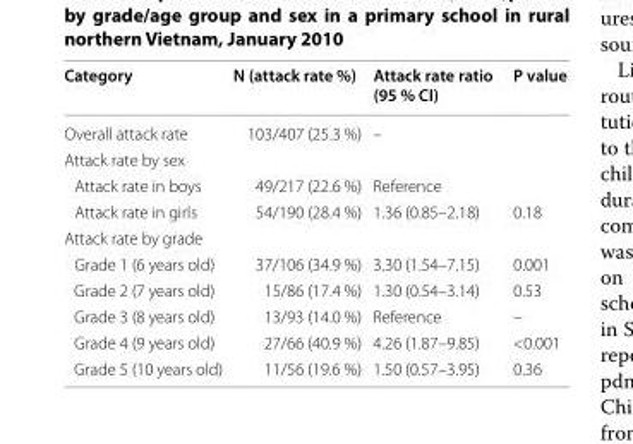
<table><thead><tr><td>Category</td><td>N (attack rate %)</td><td>Attack rate ratio (95 % CI)</td><td>P value</td></tr></thead><tbody><tr><td>Overall attack rate</td><td>103/407 (25.3 %)</td><td>–</td><td></td></tr><tr><td colspan="4">Attack rate by sex</td></tr><tr><td>Attack rate in boys</td><td>49/217 (22.6 %)</td><td>Reference</td><td></td></tr><tr><td>Attack rate in girls</td><td>54/190 (28.4 %)</td><td>1.36 (0.85–2.18)</td><td>0.18</td></tr><tr><td colspan="4">Attack rate by grade</td></tr><tr><td>Grade 1 (6 years old)</td><td>37/106 (34.9 %)</td><td>3.30 (1.54–7.15)</td><td>0.001</td></tr><tr><td>Grade 2 (7 years old)</td><td>15/86 (17.4 %)</td><td>1.30 (0.54–3.14)</td><td>0.53</td></tr><tr><td>Grade 3 (8 years old)</td><td>13/93 (14.0 %)</td><td>Reference</td><td>–</td></tr><tr><td>Grade 4 (9 years old)</td><td>27/66 (40.9 %)</td><td>4.26 (1.87–9.85)</td><td>&lt;0.001</td></tr><tr><td>Grade 5 (10 years old)</td><td>11/56 (19.6 %)</td><td>1.50 (0.57–3.95)</td><td>0.36</td></tr></tbody></table>